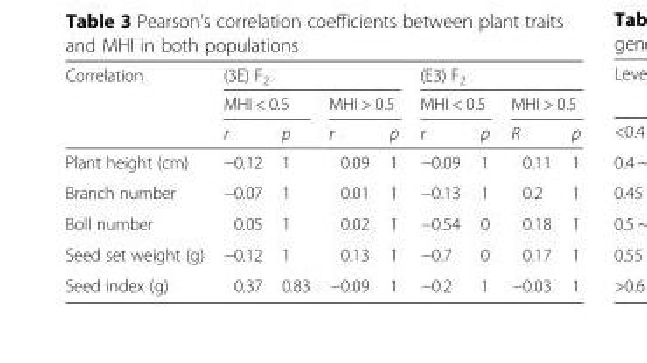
<table><thead><tr><td rowspan="3">Correlation</td><td colspan="4">(3E) F<sub>2</sub></td><td colspan="4">(E3) F<sub>2</sub></td></tr><tr><td colspan="2">MHI &lt; 0.5</td><td colspan="2">MHI &gt; 0.5</td><td colspan="2">MHI &lt; 0.5</td><td colspan="2">MHI &gt; 0.5</td></tr><tr><td>r</td><td>p</td><td>r</td><td>p</td><td>r</td><td>p</td><td>R</td><td>p</td></tr></thead><tbody><tr><td>Plant height (cm)</td><td>−0.12</td><td>1</td><td>0.09</td><td>1</td><td>−0.09</td><td>1</td><td>0.11</td><td>1</td></tr><tr><td>Branch number</td><td>−0.07</td><td>1</td><td>0.01</td><td>1</td><td>−0.13</td><td>1</td><td>0.2</td><td>1</td></tr><tr><td>Boll number</td><td>0.05</td><td>1</td><td>0.02</td><td>1</td><td>−0.54</td><td>0</td><td>0.18</td><td>1</td></tr><tr><td>Seed set weight (g)</td><td>−0.12</td><td>1</td><td>0.13</td><td>1</td><td>−0.7</td><td>0</td><td>0.17</td><td>1</td></tr><tr><td>Seed index (g)</td><td>0.37</td><td>0.83</td><td>−0.09</td><td>1</td><td>−0.2</td><td>1</td><td>−0.03</td><td>1</td></tr></tbody></table>